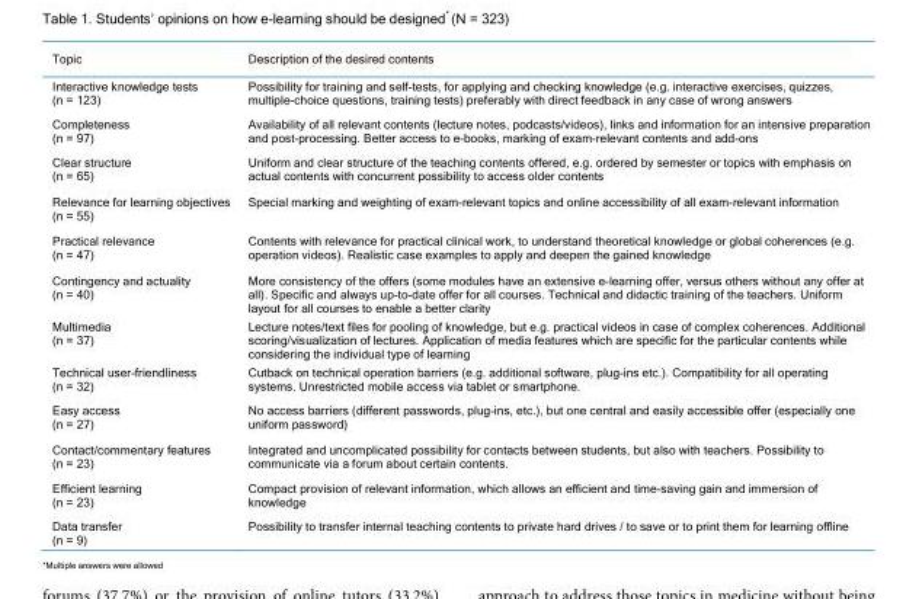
<table><thead><tr><td>Topic</td><td>Description of the desired contents</td></tr></thead><tbody><tr><td>Interactive knowledge tests (n = 123)</td><td>Possibility for training and self-tests, for applying and checking knowledge (e.g. interactive exercises, quizzes, multiple-choice questions, training tests) preferably with direct feedback in any case of wrong answers</td></tr><tr><td>Completeness (n = 97)</td><td>Availability of all relevant contents (lecture notes, podcasts/videos), links and information for an intensive preparation and post-processing. Better access to e-books, marking of exam-relevant contents and add-ons</td></tr><tr><td>Clear structure (n = 65)</td><td>Uniform and clear structure of the teaching contents offered, e.g. ordered by semester or topics with emphasis on actual contents with concurrent possibility to access older contents</td></tr><tr><td>Relevance for learning objectives (n = 55)</td><td>Special marking and weighting of exam-relevant topics and online accessibility of all exam-relevant information</td></tr><tr><td>Practical relevance (n = 47)</td><td>Contents with relevance for practical clinical work, to understand theoretical knowledge or global coherences (e.g. operation videos). Realistic case examples to apply and deepen the gained knowledge</td></tr><tr><td>Contingency and actuality (n = 40)</td><td>More consistency of the offers (some modules have an extensive e-learning offer, versus others without any offer at all). Specific and always up-to-date offer for all courses. Technical and didactic training of the teachers. Uniform layout for all courses to enable a better clarity</td></tr><tr><td>Multimedia (n = 37)</td><td>Lecture notes/text files for pooling of knowledge, but e.g. practical videos in case of complex coherences. Additional scoring/visualization of lectures. Application of media features which are specific for the particular contents while considering the individual type of learning</td></tr><tr><td>Technical user-friendliness (n = 32)</td><td>Cutback on technical operation barriers (e.g. additional software, plug-ins etc.). Compatibility for all operating systems. Unrestricted mobile access via tablet or smartphone.</td></tr><tr><td>Easy access (n = 27)</td><td>No access barriers (different passwords, plug-ins, etc.), but one central and easily accessible offer (especially one uniform password)</td></tr><tr><td>Contact/commentary features (n = 23)</td><td>Integrated and uncomplicated possibility for contacts between students, but also with teachers. Possibility to communicate via a forum about certain contents.</td></tr><tr><td>Efficient learning (n = 23)</td><td>Compact provision of relevant information, which allows an efficient and time-saving gain and immersion of knowledge</td></tr><tr><td>Data transfer (n = 9)</td><td>Possibility to transfer internal teaching contents to private hard drives / to save or to print them for learning offline</td></tr></tbody></table>